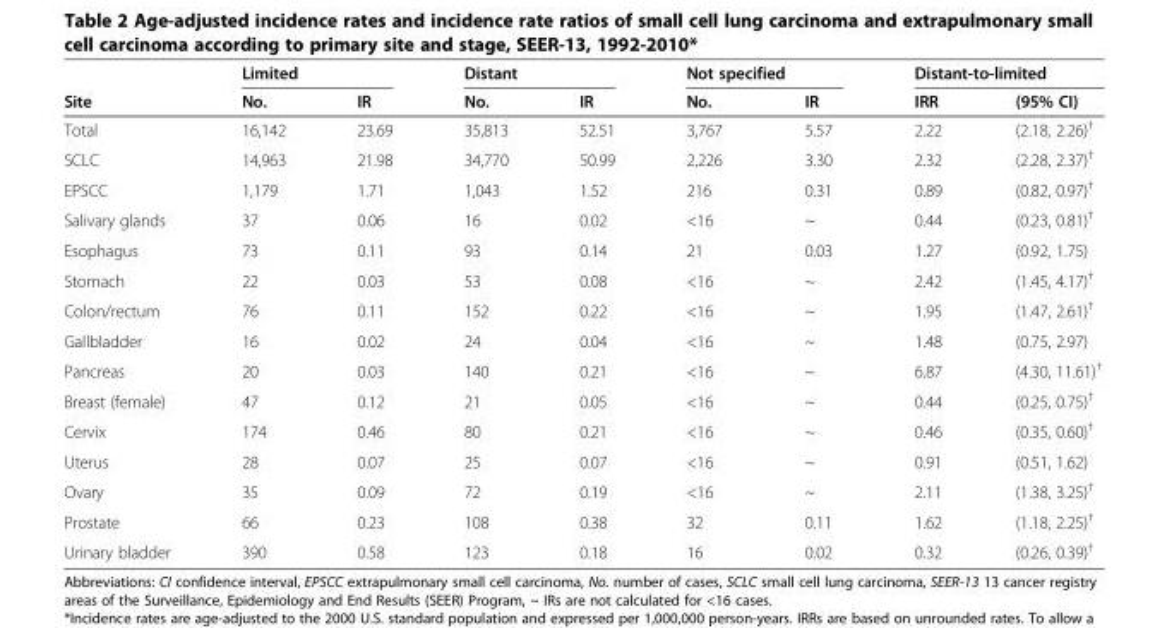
<table><thead><tr><td rowspan="2">Site</td><td colspan="2">Limited</td><td colspan="2">Distant</td><td colspan="2">Not specified</td><td colspan="2">Distant-to-limited</td></tr><tr><td>No.</td><td>IR</td><td>No.</td><td>IR</td><td>No.</td><td>IR</td><td>IRR</td><td>(95% CI)</td></tr></thead><tbody><tr><td>Total</td><td>16,142</td><td>23.69</td><td>35,813</td><td>52.51</td><td>3,767</td><td>5.57</td><td>2.22</td><td>(2.18, 2.26)<sup>†</sup></td></tr><tr><td>SCLC</td><td>14,963</td><td>21.98</td><td>34,770</td><td>50.99</td><td>2,226</td><td>3.30</td><td>2.32</td><td>(2.28, 2.37)<sup>†</sup></td></tr><tr><td>EPSCC</td><td>1,179</td><td>1.71</td><td>1,043</td><td>1.52</td><td>216</td><td>0.31</td><td>0.89</td><td>(0.82, 0.97)<sup>†</sup></td></tr><tr><td>Salivary glands</td><td>37</td><td>0.06</td><td>16</td><td>0.02</td><td>&lt;16</td><td>~</td><td>0.44</td><td>(0.23, 0.81)<sup>†</sup></td></tr><tr><td>Esophagus</td><td>73</td><td>0.11</td><td>93</td><td>0.14</td><td>21</td><td>0.03</td><td>1.27</td><td>(0.92, 1.75)</td></tr><tr><td>Stomach</td><td>22</td><td>0.03</td><td>53</td><td>0.08</td><td>&lt;16</td><td>~</td><td>2.42</td><td>(1.45, 4.17)<sup>†</sup></td></tr><tr><td>Colon/rectum</td><td>76</td><td>0.11</td><td>152</td><td>0.22</td><td>&lt;16</td><td>~</td><td>1.95</td><td>(1.47, 2.61)<sup>†</sup></td></tr><tr><td>Gallbladder</td><td>16</td><td>0.02</td><td>24</td><td>0.04</td><td>&lt;16</td><td>~</td><td>1.48</td><td>(0.75, 2.97)</td></tr><tr><td>Pancreas</td><td>20</td><td>0.03</td><td>140</td><td>0.21</td><td>&lt;16</td><td>~</td><td>6.87</td><td>(4.30, 11.61)<sup>†</sup></td></tr><tr><td>Breast (female)</td><td>47</td><td>0.12</td><td>21</td><td>0.05</td><td>&lt;16</td><td>~</td><td>0.44</td><td>(0.25, 0.75)<sup>†</sup></td></tr><tr><td>Cervix</td><td>174</td><td>0.46</td><td>80</td><td>0.21</td><td>&lt;16</td><td>~</td><td>0.46</td><td>(0.35, 0.60)<sup>†</sup></td></tr><tr><td>Uterus</td><td>28</td><td>0.07</td><td>25</td><td>0.07</td><td>&lt;16</td><td>~</td><td>0.91</td><td>(0.51, 1.62)</td></tr><tr><td>Ovary</td><td>35</td><td>0.09</td><td>72</td><td>0.19</td><td>&lt;16</td><td>~</td><td>2.11</td><td>(1.38, 3.25)<sup>†</sup></td></tr><tr><td>Prostate</td><td>66</td><td>0.23</td><td>108</td><td>0.38</td><td>32</td><td>0.11</td><td>1.62</td><td>(1.18, 2.25)<sup>†</sup></td></tr><tr><td>Urinary bladder</td><td>390</td><td>0.58</td><td>123</td><td>0.18</td><td>16</td><td>0.02</td><td>0.32</td><td>(0.26, 0.39)<sup>†</sup></td></tr></tbody></table>